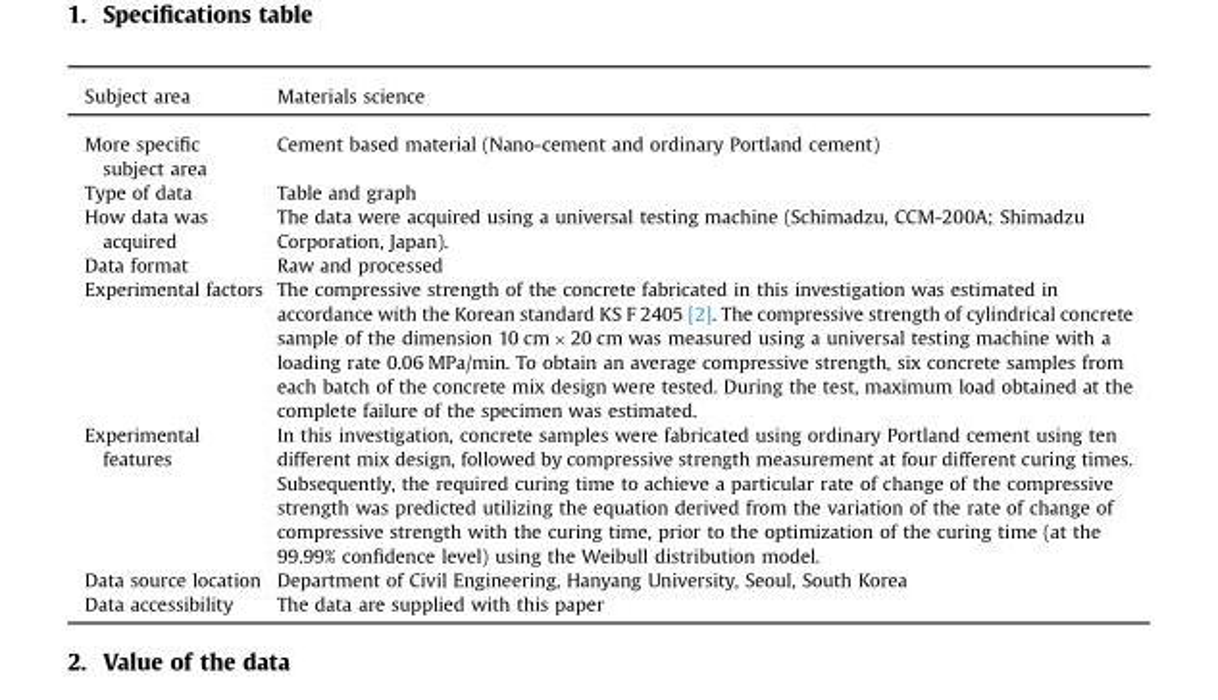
<table><thead><tr><td>Subject area</td><td>Materials science</td></tr></thead><tbody><tr><td>More specific subject area</td><td>Cement based material (Nano-cement and ordinary Portland cement)</td></tr><tr><td>Type of data</td><td>Table and graph</td></tr><tr><td>How data was acquired</td><td>The data were acquired using a universal testing machine (Schimadzu, CCM-200A; Shimadzu Corporation, Japan).</td></tr><tr><td>Data format</td><td>Raw and processed</td></tr><tr><td>Experimental factors</td><td>The compressive strength of the concrete fabricated in this investigation was estimated in accordance with the Korean standard KS F 2405 [2]. The compressive strength of cylindrical concrete sample of the dimension 10 cm × 20 cm was measured using a universal testing machine with a loading rate 0.06 MPa/min. To obtain an average compressive strength, six concrete samples from each batch of the concrete mix design were tested. During the test, maximum load obtained at the complete failure of the specimen was estimated.</td></tr><tr><td>Experimental features</td><td>In this investigation, concrete samples were fabricated using ordinary Portland cement using ten different mix design, followed by compressive strength measurement at four different curing times. Subsequently, the required curing time to achieve a particular rate of change of the compressive strength was predicted utilizing the equation derived from the variation of the rate of change of compressive strength with the curing time, prior to the optimization of the curing time (at the 99.99% confidence level) using the Weibull distribution model.</td></tr><tr><td>Data source location</td><td>Department of Civil Engineering, Hanyang University, Seoul, South Korea</td></tr><tr><td>Data accessibility</td><td>The data are supplied with this paper</td></tr></tbody></table>